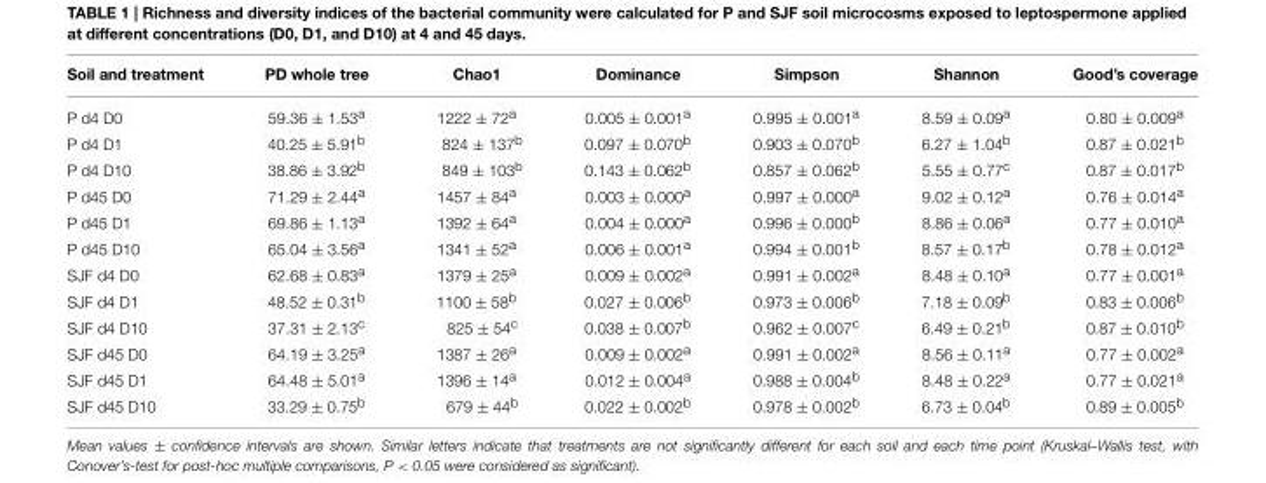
<table><thead><tr><td>Soil and treatment</td><td>PD whole tree</td><td>Chao1</td><td>Dominance</td><td>Simpson</td><td>Shannon</td><td>Good’s coverage</td></tr></thead><tbody><tr><td>P d4 D0</td><td>59.36 ± 1.53<sup>a</sup></td><td>1222 ± 72<sup>a</sup></td><td>0.005 ± 0.001<sup>a</sup></td><td>0.995 ± 0.001<sup>a</sup></td><td>8.59 ± 0.09<sup>a</sup></td><td>0.80 ± 0.009<sup>a</sup></td></tr><tr><td>P d4 D1</td><td>40.25 ± 5.91<sup>b</sup></td><td>824 ± 137<sup>b</sup></td><td>0.097 ± 0.070<sup>b</sup></td><td>0.903 ± 0.070<sup>b</sup></td><td>6.27 ± 1.04<sup>b</sup></td><td>0.87 ± 0.021<sup>b</sup></td></tr><tr><td>P d4 D10</td><td>38.86 ± 3.92<sup>b</sup></td><td>849 ± 103<sup>b</sup></td><td>0.143 ± 0.062<sup>b</sup></td><td>0.857 ± 0.062<sup>b</sup></td><td>5.55 ± 0.77<sup>c</sup></td><td>0.87 ± 0.017<sup>b</sup></td></tr><tr><td>P d45 D0</td><td>71.29 ± 2.44<sup>a</sup></td><td>1457 ± 84<sup>a</sup></td><td>0.003 ± 0.000<sup>a</sup></td><td>0.997 ± 0.000<sup>a</sup></td><td>9.02 ± 0.12<sup>a</sup></td><td>0.76 ± 0.014<sup>a</sup></td></tr><tr><td>P d45 D1</td><td>69.86 ± 1.13<sup>a</sup></td><td>1392 ± 64<sup>a</sup></td><td>0.004 ± 0.000<sup>a</sup></td><td>0.996 ± 0.000<sup>b</sup></td><td>8.86 ± 0.06<sup>a</sup></td><td>0.77 ± 0.010<sup>a</sup></td></tr><tr><td>P d45 D10</td><td>65.04 ± 3.56<sup>a</sup></td><td>1341 ± 52<sup>a</sup></td><td>0.006 ± 0.001<sup>a</sup></td><td>0.994 ± 0.001<sup>b</sup></td><td>8.57 ± 0.17<sup>b</sup></td><td>0.78 ± 0.012<sup>a</sup></td></tr><tr><td>SJF d4 D0</td><td>62.68 ± 0.83<sup>a</sup></td><td>1379 ± 25<sup>a</sup></td><td>0.009 ± 0.002<sup>a</sup></td><td>0.991 ± 0.002<sup>a</sup></td><td>8.48 ± 0.10<sup>a</sup></td><td>0.77 ± 0.001<sup>a</sup></td></tr><tr><td>SJF d4 D1</td><td>48.52 ± 0.31<sup>b</sup></td><td>1100 ± 58<sup>b</sup></td><td>0.027 ± 0.006<sup>b</sup></td><td>0.973 ± 0.006<sup>b</sup></td><td>7.18 ± 0.09<sup>b</sup></td><td>0.83 ± 0.006<sup>b</sup></td></tr><tr><td>SJF d4 D10</td><td>37.31 ± 2.13<sup>c</sup></td><td>825 ± 54<sup>c</sup></td><td>0.038 ± 0.007<sup>b</sup></td><td>0.962 ± 0.007<sup>c</sup></td><td>6.49 ± 0.21<sup>b</sup></td><td>0.87 ± 0.010<sup>b</sup></td></tr><tr><td>SJF d45 D0</td><td>64.19 ± 3.25<sup>a</sup></td><td>1387 ± 26<sup>a</sup></td><td>0.009 ± 0.002<sup>a</sup></td><td>0.991 ± 0.002<sup>a</sup></td><td>8.56 ± 0.11<sup>a</sup></td><td>0.77 ± 0.002<sup>a</sup></td></tr><tr><td>SJF d45 D1</td><td>64.48 ± 5.01<sup>a</sup></td><td>1396 ± 14<sup>a</sup></td><td>0.012 ± 0.004<sup>a</sup></td><td>0.988 ± 0.004<sup>b</sup></td><td>8.48 ± 0.22<sup>a</sup></td><td>0.77 ± 0.021<sup>a</sup></td></tr><tr><td>SJF d45 D10</td><td>33.29 ± 0.75<sup>b</sup></td><td>679 ± 44<sup>b</sup></td><td>0.022 ± 0.002<sup>b</sup></td><td>0.978 ± 0.002<sup>b</sup></td><td>6.73 ± 0.04<sup>b</sup></td><td>0.89 ± 0.005<sup>b</sup></td></tr></tbody></table>